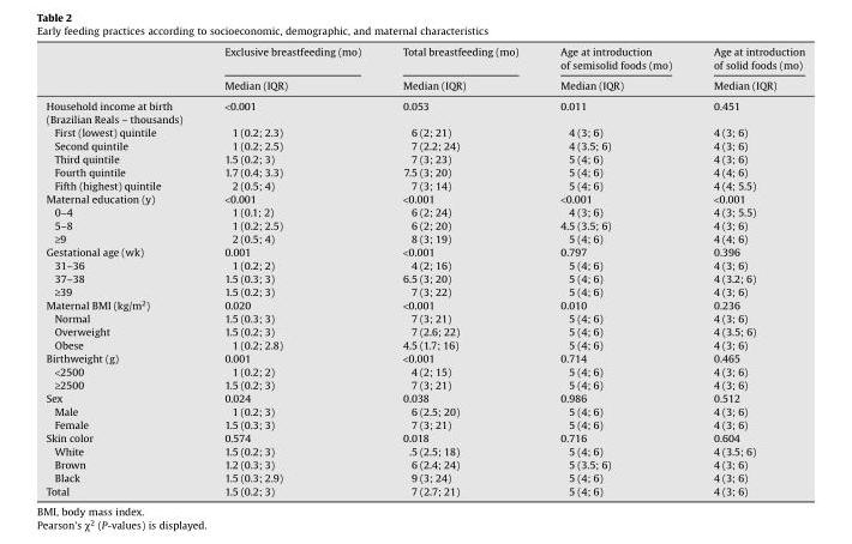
<table><thead><tr><td rowspan="2"></td><td rowspan="2">Exclusive breastfeeding (mo) Median (IQR)</td><td rowspan="2">Total breastfeeding (mo) Median (IQR)</td><td rowspan="2">Age at introduction of semisolid foods (mo) Median (IQR)</td><td rowspan="2">Age at introduction of solid foods (mo) Median (IQR)</td></tr><tr></tr></thead><tbody><tr><td>Household income at birth (Brazilian Reals – thousands)</td><td>&lt;0.001</td><td>0.053</td><td>0.011</td><td>0.451</td></tr><tr><td>First (lowest) quintile</td><td>1 (0.2; 2.3)</td><td>6 (2; 21)</td><td>4 (3; 6)</td><td>4 (3; 6)</td></tr><tr><td>Second quintile</td><td>1 (0.2; 2.5)</td><td>7 (2.2; 24)</td><td>4 (3.5; 6)</td><td>4 (3; 6)</td></tr><tr><td>Third quintile</td><td>1.5 (0.2; 3)</td><td>7 (3; 23)</td><td>5 (4; 6)</td><td>4 (3; 6)</td></tr><tr><td>Fourth quintile</td><td>1.7 (0.4; 3.3)</td><td>7.5 (3; 20)</td><td>5 (4; 6)</td><td>4 (4; 6)</td></tr><tr><td>Fifth (highest) quintile</td><td>2 (0.5; 4)</td><td>7 (3; 14)</td><td>5 (4; 6)</td><td>4 (4; 5.5)</td></tr><tr><td>Maternal education (y)</td><td>&lt;0.001</td><td>&lt;0.001</td><td>&lt;0.001</td><td>&lt;0.001</td></tr><tr><td>0–4</td><td>1 (0.1; 2)</td><td>6 (2; 24)</td><td>4 (3; 6)</td><td>4 (3; 5.5)</td></tr><tr><td>5–8</td><td>1 (0.2; 2.5)</td><td>6 (2; 20)</td><td>4.5 (3.5; 6)</td><td>4 (3; 6)</td></tr><tr><td>≥9</td><td>2 (0.5; 4)</td><td>8 (3; 19)</td><td>5 (4; 6)</td><td>4 (4; 6)</td></tr><tr><td>Gestational age (wk)</td><td>0.001</td><td>&lt;0.001</td><td>0.797</td><td>0.396</td></tr><tr><td>31–36</td><td>1 (0.2; 2)</td><td>4 (2; 16)</td><td>5 (4; 6)</td><td>4 (3; 6)</td></tr><tr><td>37–38</td><td>1.5 (0.3; 3)</td><td>6.5 (3; 20)</td><td>5 (4; 6)</td><td>4 (3.2; 6)</td></tr><tr><td>≥39</td><td>1.5 (0.2; 3)</td><td>7 (3; 22)</td><td>5 (4; 6)</td><td>4 (3; 6)</td></tr><tr><td>Maternal BMI (kg/m<sup>2</sup>)</td><td>0.020</td><td>&lt;0.001</td><td>0.010</td><td>0.236</td></tr><tr><td>Normal</td><td>1.5 (0.3; 3)</td><td>7 (3; 21)</td><td>5 (4; 6)</td><td>4 (3; 6)</td></tr><tr><td>Overweight</td><td>1.5 (0.2; 3)</td><td>7 (2.6; 22)</td><td>5 (4; 6)</td><td>4 (3.5; 6)</td></tr><tr><td>Obese</td><td>1 (0.2; 2.8)</td><td>4.5 (1.7; 16)</td><td>5 (4; 6)</td><td>4 (3; 6)</td></tr><tr><td>Birthweight (g)</td><td>0.001</td><td>&lt;0.001</td><td>0.714</td><td>0.465</td></tr><tr><td>&lt;2500</td><td>1 (0.2; 2)</td><td>4 (2; 15)</td><td>5 (4; 6)</td><td>4 (3; 6)</td></tr><tr><td>≥2500</td><td>1.5 (0.2; 3)</td><td>7 (3; 21)</td><td>5 (4; 6)</td><td>4 (3; 6)</td></tr><tr><td>Sex</td><td>0.024</td><td>0.038</td><td>0.986</td><td>0.512</td></tr><tr><td>Male</td><td>1 (0.2; 3)</td><td>6 (2.5; 20)</td><td>5 (4; 6)</td><td>4 (3; 6)</td></tr><tr><td>Female</td><td>1.5 (0.3; 3)</td><td>7 (3; 21)</td><td>5 (4; 6)</td><td>4 (3; 6)</td></tr><tr><td>Skin color</td><td>0.574</td><td>0.018</td><td>0.716</td><td>0.604</td></tr><tr><td>White</td><td>1.5 (0.2; 3)</td><td>.5 (2.5; 18)</td><td>5 (4; 6)</td><td>4 (3.5; 6)</td></tr><tr><td>Brown</td><td>1.2 (0.3; 3)</td><td>6 (2.4; 24)</td><td>5 (3.5; 6)</td><td>4 (3; 6)</td></tr><tr><td>Black</td><td>1.5 (0.3; 2.9)</td><td>9 (3; 24)</td><td>5 (4; 6)</td><td>4 (3; 6)</td></tr><tr><td>Total</td><td>1.5 (0.2; 3)</td><td>7 (2.7; 21)</td><td>5 (4; 6)</td><td>4 (3; 6)</td></tr></tbody></table>